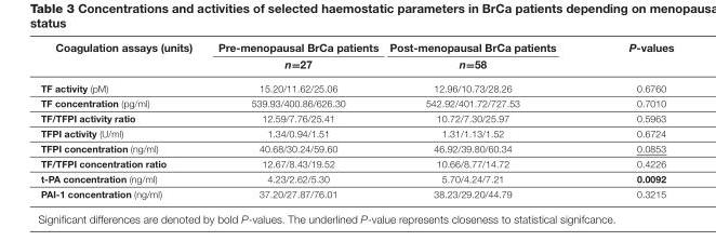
<table><thead><tr><td rowspan="2">Coagulation assays (units)</td><td rowspan="2">Pre-menopausal BrCa patients n=27</td><td rowspan="2">Post-menopausal BrCa patients n=58</td><td rowspan="2">P-values</td></tr><tr></tr></thead><tbody><tr><td>TF activity (pM)</td><td>15.20/11.62/25.06</td><td>12.96/10.73/28.26</td><td>0.6760</td></tr><tr><td>TF concentration (pg/ml)</td><td>539.93/400.86/626.30</td><td>542.92/401.72/727.53</td><td>0.7010</td></tr><tr><td>TF/TFPI activity ratio</td><td>12.59/7.76/25.41</td><td>10.72/7.30/25.97</td><td>0.5963</td></tr><tr><td>TFPI activity (U/ml)</td><td>1.34/0.94/1.51</td><td>1.31/1.13/1.52</td><td>0.6724</td></tr><tr><td>TFPI concentration (ng/ml)</td><td>40.68/30.24/59.60</td><td>46.92/39.80/60.34</td><td>0.0853</td></tr><tr><td>TF/TFPI concentration ratio</td><td>12.67/8.43/19.52</td><td>10.66/8.77/14.72</td><td>0.4226</td></tr><tr><td>t-PA concentration (ng/ml)</td><td>4.23/2.62/5.30</td><td>5.70/4.24/7.21</td><td>0.0092</td></tr><tr><td>PAI-1 concentration (ng/ml)</td><td>37.20/27.87/76.01</td><td>38.23/29.20/44.79</td><td>0.3215</td></tr></tbody></table>